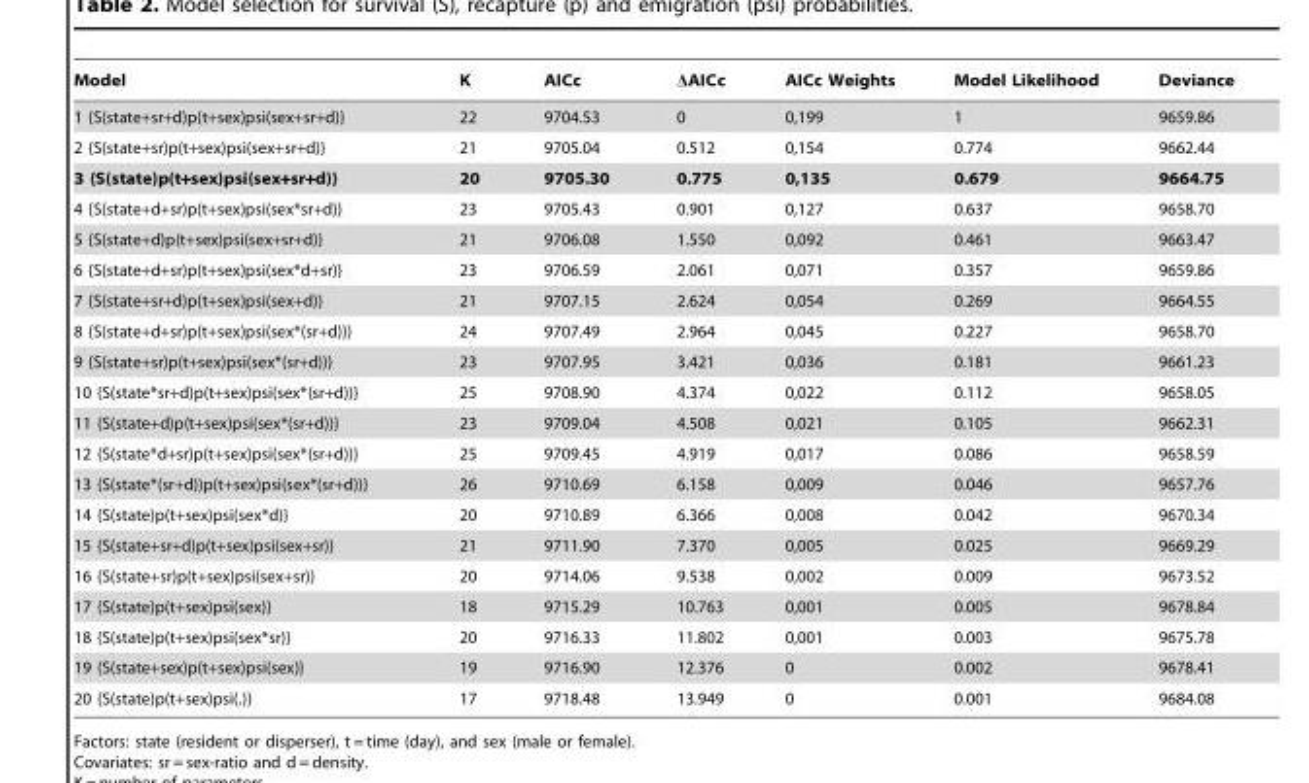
<table><thead><tr><td>Model</td><td>K</td><td>AICc</td><td>ΔAICc</td><td>AICc Weights</td><td>Model Likelihood</td><td>Deviance</td></tr></thead><tbody><tr><td>1 {S(state+sr+d)p(t+sex)psi(sex+sr+d)}</td><td>22</td><td>9704.53</td><td>0</td><td>0,199</td><td>1</td><td>9659.86</td></tr><tr><td>2 {S(state+sr)p(t+sex)psi(sex+sr+d)}</td><td>21</td><td>9705.04</td><td>0.512</td><td>0,154</td><td>0.774</td><td>9662.44</td></tr><tr><td>3 {S(state)p(t+sex)psi(sex+sr+d)}</td><td>20</td><td>9705.30</td><td>0.775</td><td>0,135</td><td>0.679</td><td>9664.75</td></tr><tr><td>4 {S(state+d+sr)p(t+sex)psi(sex*sr+d)}</td><td>23</td><td>9705.43</td><td>0.901</td><td>0,127</td><td>0.637</td><td>9658.70</td></tr><tr><td>5 {S(state+d)p(t+sex)psi(sex+sr+d)}</td><td>21</td><td>9706.08</td><td>1.550</td><td>0,092</td><td>0.461</td><td>9663.47</td></tr><tr><td>6 {S(state+d+sr)p(t+sex)psi(sex*d+sr)}</td><td>23</td><td>9706.59</td><td>2.061</td><td>0,071</td><td>0.357</td><td>9659.86</td></tr><tr><td>7 {S(state+sr+d)p(t+sex)psi(sex+d)}</td><td>21</td><td>9707.15</td><td>2.624</td><td>0,054</td><td>0.269</td><td>9664.55</td></tr><tr><td>8 {S(state+d+sr)p(t+sex)psi(sex*(sr+d))}</td><td>24</td><td>9707.49</td><td>2.964</td><td>0,045</td><td>0.227</td><td>9658.70</td></tr><tr><td>9 {S(state+sr)p(t+sex)psi(sex*(sr+d))}</td><td>23</td><td>9707.95</td><td>3.421</td><td>0,036</td><td>0.181</td><td>9661.23</td></tr><tr><td>10 {S(state*sr+d)p(t+sex)psi(sex*(sr+d))}</td><td>25</td><td>9708.90</td><td>4.374</td><td>0,022</td><td>0.112</td><td>9658.05</td></tr><tr><td>11 {S(state+d)p(t+sex)psi(sex*(sr+d))}</td><td>23</td><td>9709.04</td><td>4.508</td><td>0,021</td><td>0.105</td><td>9662.31</td></tr><tr><td>12 {S(state*d+sr)p(t+sex)psi(sex*(sr+d))}</td><td>25</td><td>9709.45</td><td>4.919</td><td>0,017</td><td>0.086</td><td>9658.59</td></tr><tr><td>13 {S(state*(sr+d))p(t+sex)psi(sex*(sr+d))}</td><td>26</td><td>9710.69</td><td>6.158</td><td>0,009</td><td>0.046</td><td>9657.76</td></tr><tr><td>14 {S(state)p(t+sex)psi(sex*d)}</td><td>20</td><td>9710.89</td><td>6.366</td><td>0,008</td><td>0.042</td><td>9670.34</td></tr><tr><td>15 {S(state+sr+d)p(t+sex)psi(sex+sr)}</td><td>21</td><td>9711.90</td><td>7.370</td><td>0,005</td><td>0.025</td><td>9669.29</td></tr><tr><td>16 {S(state+sr)p(t+sex)psi(sex+sr)}</td><td>20</td><td>9714.06</td><td>9.538</td><td>0,002</td><td>0.009</td><td>9673.52</td></tr><tr><td>17 {S(state)p(t+sex)psi(sex)}</td><td>18</td><td>9715.29</td><td>10.763</td><td>0,001</td><td>0.005</td><td>9678.84</td></tr><tr><td>18 {S(state)p(t+sex)psi(sex*sr)}</td><td>20</td><td>9716.33</td><td>11.802</td><td>0,001</td><td>0.003</td><td>9675.78</td></tr><tr><td>19 {S(state+sex)p(t+sex)psi(sex)}</td><td>19</td><td>9716.90</td><td>12.376</td><td>0</td><td>0.002</td><td>9678.41</td></tr><tr><td>20 {S(state)p(t+sex)psi(.)}</td><td>17</td><td>9718.48</td><td>13.949</td><td>0</td><td>0.001</td><td>9684.08</td></tr></tbody></table>